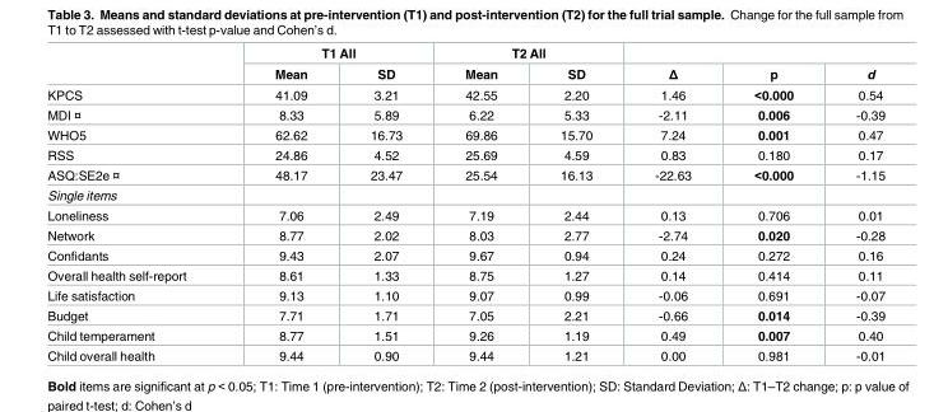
<table><thead><tr><td rowspan="2"></td><td colspan="2">T1 All</td><td colspan="2">T2 All</td><td rowspan="2">Δ</td><td rowspan="2">p</td><td rowspan="2">d</td></tr><tr><td>Mean</td><td>SD</td><td>Mean</td><td>SD</td></tr></thead><tbody><tr><td>KPCS</td><td>41.09</td><td>3.21</td><td>42.55</td><td>2.20</td><td>1.46</td><td>&lt;0.000</td><td>0.54</td></tr><tr><td>MDI ¤</td><td>8.33</td><td>5.89</td><td>6.22</td><td>5.33</td><td>-2.11</td><td>0.006</td><td>-0.39</td></tr><tr><td>WHO5</td><td>62.62</td><td>16.73</td><td>69.86</td><td>15.70</td><td>7.24</td><td>0.001</td><td>0.47</td></tr><tr><td>RSS</td><td>24.86</td><td>4.52</td><td>25.69</td><td>4.59</td><td>0.83</td><td>0.180</td><td>0.17</td></tr><tr><td>ASQ:SE2e ¤</td><td>48.17</td><td>23.47</td><td>25.54</td><td>16.13</td><td>-22.63</td><td>&lt;0.000</td><td>-1.15</td></tr><tr><td colspan="8">Single items</td></tr><tr><td>Loneliness</td><td>7.06</td><td>2.49</td><td>7.19</td><td>2.44</td><td>0.13</td><td>0.706</td><td>0.01</td></tr><tr><td>Network</td><td>8.77</td><td>2.02</td><td>8.03</td><td>2.77</td><td>-2.74</td><td>0.020</td><td>-0.28</td></tr><tr><td>Confidants</td><td>9.43</td><td>2.07</td><td>9.67</td><td>0.94</td><td>0.24</td><td>0.272</td><td>0.16</td></tr><tr><td>Overall health self-report</td><td>8.61</td><td>1.33</td><td>8.75</td><td>1.27</td><td>0.14</td><td>0.414</td><td>0.11</td></tr><tr><td>Life satisfaction</td><td>9.13</td><td>1.10</td><td>9.07</td><td>0.99</td><td>-0.06</td><td>0.691</td><td>-0.07</td></tr><tr><td>Budget</td><td>7.71</td><td>1.71</td><td>7.05</td><td>2.21</td><td>-0.66</td><td>0.014</td><td>-0.39</td></tr><tr><td>Child temperament</td><td>8.77</td><td>1.51</td><td>9.26</td><td>1.19</td><td>0.49</td><td>0.007</td><td>0.40</td></tr><tr><td>Child overall health</td><td>9.44</td><td>0.90</td><td>9.44</td><td>1.21</td><td>0.00</td><td>0.981</td><td>-0.01</td></tr></tbody></table>